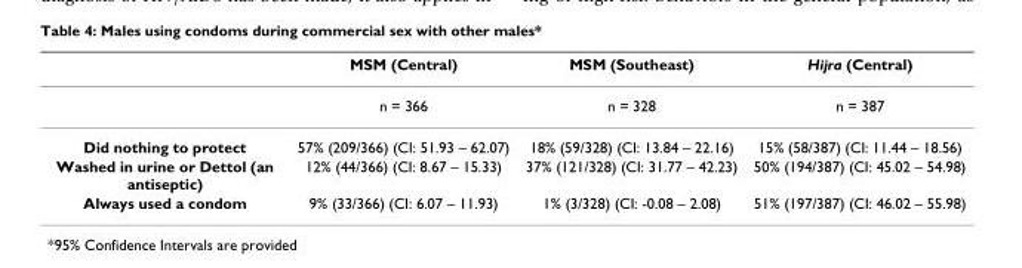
<table><thead><tr><td></td><td>MSM (Central)</td><td>MSM (Southeast)</td><td>Hijra (Central)</td></tr></thead><tbody><tr><td></td><td>n = 366</td><td>n = 328</td><td>n = 387</td></tr><tr><td>Did nothing to protect</td><td>57% (209/366) (CI: 51.93 – 62.07)</td><td>18% (59/328) (CI: 13.84 – 22.16)</td><td>15% (58/387) (CI: 11.44 – 18.56)</td></tr><tr><td>Washed in urine or Dettol (an antiseptic)</td><td>12% (44/366) (CI: 8.67 – 15.33)</td><td>37% (121/328) (CI: 31.77 – 42.23)</td><td>50% (194/387) (CI: 45.02 – 54.98)</td></tr><tr><td>Always used a condom</td><td>9% (33/366) (CI: 6.07 – 11.93)</td><td>1% (3/328) (CI: -0.08 – 2.08)</td><td>51% (197/387) (CI: 46.02 – 55.98)</td></tr></tbody></table>